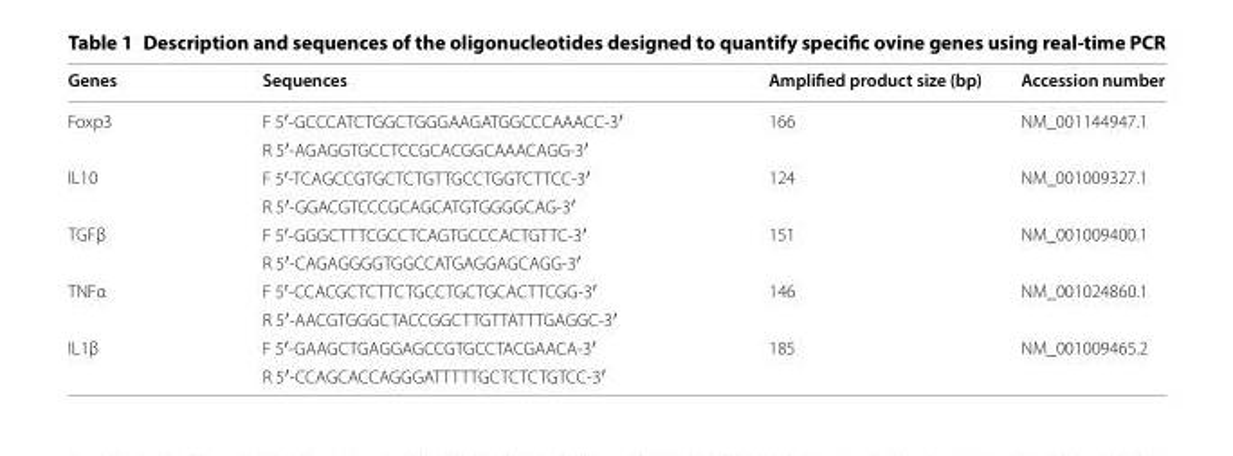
<table><thead><tr><td>Genes</td><td>Sequences</td><td>Amplified product size (bp)</td><td>Accession number</td></tr></thead><tbody><tr><td rowspan="2">Foxp3</td><td>F 5′‑GCC CAT CTG GCT GGG AAG ATG GCC CAA ACC ‑3′</td><td rowspan="2">166</td><td rowspan="2">NM_001144947.1</td></tr><tr><td>R 5′‑AGA GGT GCC TCC GCA CGG CAA ACA GG‑3′</td></tr><tr><td rowspan="2">IL10</td><td>F 5′‑TCA GCC GTG CTC TGT TGC CTG GTC TTCC‑3′</td><td rowspan="2">124</td><td rowspan="2">NM_001009327.1</td></tr><tr><td>R 5′‑GGA CGT CCC GCA GCA TGT GGG GCA G‑3′</td></tr><tr><td rowspan="2">TGFβ</td><td>F 5′‑GGG CTT TCG CCT CAG TGC CCA CTG TTC‑3′</td><td rowspan="2">151</td><td rowspan="2">NM_001009400.1</td></tr><tr><td>R 5′‑CAG AGG GGT GGC CAT GAG GAG CAG G‑3′</td></tr><tr><td rowspan="2">TNFα</td><td>F 5′‑CCA CGC TCT TCT GCC TGC TGC ACT TCGG‑3′</td><td rowspan="2">146</td><td rowspan="2">NM_001024860.1</td></tr><tr><td>R 5′‑AAC GTG GGC TAC CGG CTT GTT ATT TGA GGC ‑3′</td></tr><tr><td rowspan="2">IL1β</td><td>F 5′‑GAA GCT GAG GAG CCG TGC CTA CGA ACA‑3′</td><td rowspan="2">185</td><td rowspan="2">NM_001009465.2</td></tr><tr><td>R 5′‑CCA GCA CCA GGG ATT TTT GCT CTC TGTCC‑3′</td></tr></tbody></table>